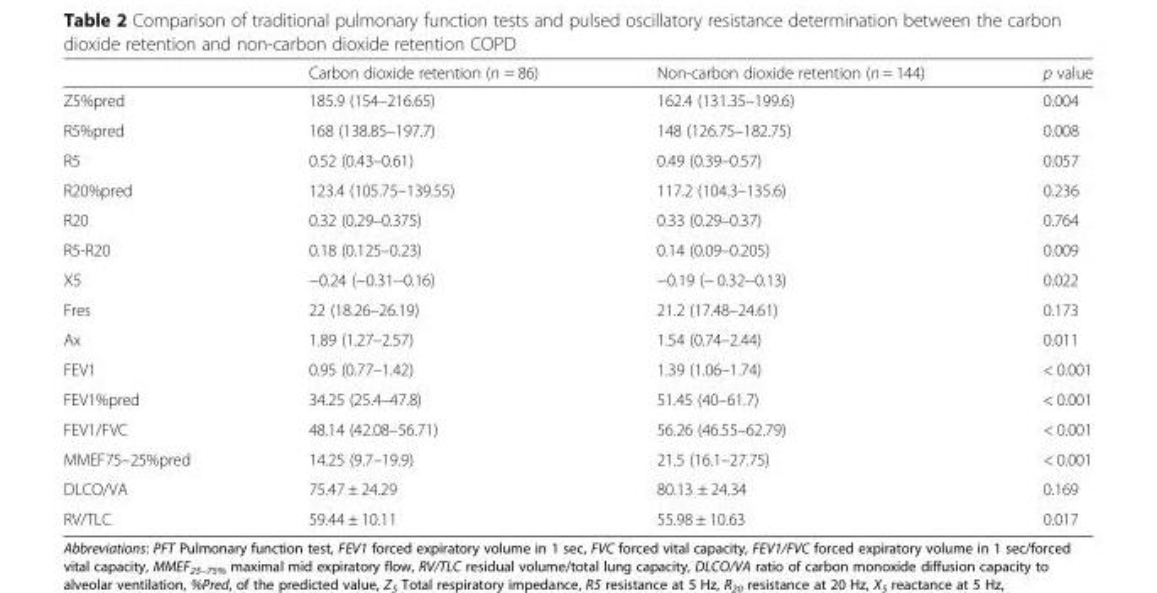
<table><thead><tr><td></td><td>Carbon dioxide retention (n = 86)</td><td>Non-carbon dioxide retention (n = 144)</td><td>p value</td></tr></thead><tbody><tr><td>Z5%pred</td><td>185.9 (154–216.65)</td><td>162.4 (131.35–199.6)</td><td>0.004</td></tr><tr><td>R5%pred</td><td>168 (138.85–197.7)</td><td>148 (126.75–182.75)</td><td>0.008</td></tr><tr><td>R5</td><td>0.52 (0.43–0.61)</td><td>0.49 (0.39–0.57)</td><td>0.057</td></tr><tr><td>R20%pred</td><td>123.4 (105.75–139.55)</td><td>117.2 (104.3–135.6)</td><td>0.236</td></tr><tr><td>R20</td><td>0.32 (0.29–0.375)</td><td>0.33 (0.29–0.37)</td><td>0.764</td></tr><tr><td>R5-R20</td><td>0.18 (0.125–0.23)</td><td>0.14 (0.09–0.205)</td><td>0.009</td></tr><tr><td>X5</td><td>−0.24 (−0.31--0.16)</td><td>−0.19 (− 0.32--0.13)</td><td>0.022</td></tr><tr><td>Fres</td><td>22 (18.26–26.19)</td><td>21.2 (17.48–24.61)</td><td>0.173</td></tr><tr><td>Ax</td><td>1.89 (1.27–2.57)</td><td>1.54 (0.74–2.44)</td><td>0.011</td></tr><tr><td>FEV1</td><td>0.95 (0.77–1.42)</td><td>1.39 (1.06–1.74)</td><td>&lt; 0.001</td></tr><tr><td>FEV1%pred</td><td>34.25 (25.4–47.8)</td><td>51.45 (40–61.7)</td><td>&lt; 0.001</td></tr><tr><td>FEV1/FVC</td><td>48.14 (42.08–56.71)</td><td>56.26 (46.55–62.79)</td><td>&lt; 0.001</td></tr><tr><td>MMEF75–25%pred</td><td>14.25 (9.7–19.9)</td><td>21.5 (16.1–27.75)</td><td>&lt; 0.001</td></tr><tr><td>DLCO/VA</td><td>75.47 ± 24.29</td><td>80.13 ± 24.34</td><td>0.169</td></tr><tr><td>RV/TLC</td><td>59.44 ± 10.11</td><td>55.98 ± 10.63</td><td>0.017</td></tr></tbody></table>